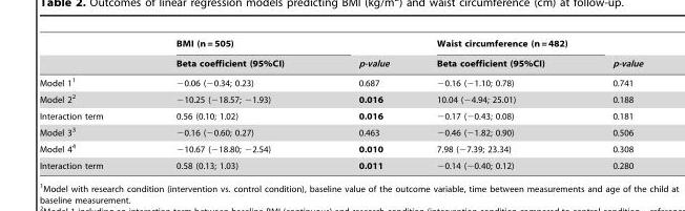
<table><thead><tr><td rowspan="2"></td><td rowspan="2">BMI (n = 505) Beta coefficient (95%CI)</td><td rowspan="2">p-value</td><td rowspan="2">Waist circumference (n = 482) Beta coefficient (95%CI)</td><td rowspan="2">p-value</td></tr><tr></tr></thead><tbody><tr><td>Model 1<sup>1</sup></td><td>−0.06 (−0.34; 0.23)</td><td>0.687</td><td>−0.16 (−1.10; 0.78)</td><td>0.741</td></tr><tr><td>Model 2<sup>2</sup></td><td>−10.25 (−18.57; −1.93)</td><td>0.016</td><td>10.04 (−4.94; 25.01)</td><td>0.188</td></tr><tr><td>Interaction term</td><td>0.56 (0.10; 1.02)</td><td>0.016</td><td>−0.17 (−0.43; 0.08)</td><td>0.181</td></tr><tr><td>Model 3<sup>3</sup></td><td>−0.16 (−0.60; 0.27)</td><td>0.463</td><td>−0.46 (−1.82; 0.90)</td><td>0.506</td></tr><tr><td>Model 4<sup>4</sup></td><td>−10.67 (−18.80; −2.54)</td><td>0.010</td><td>7.98 (−7.39; 23.34)</td><td>0.308</td></tr><tr><td>Interaction term</td><td>0.58 (0.13; 1.03)</td><td>0.011</td><td>−0.14 (−0.40; 0.12)</td><td>0.280</td></tr></tbody></table>